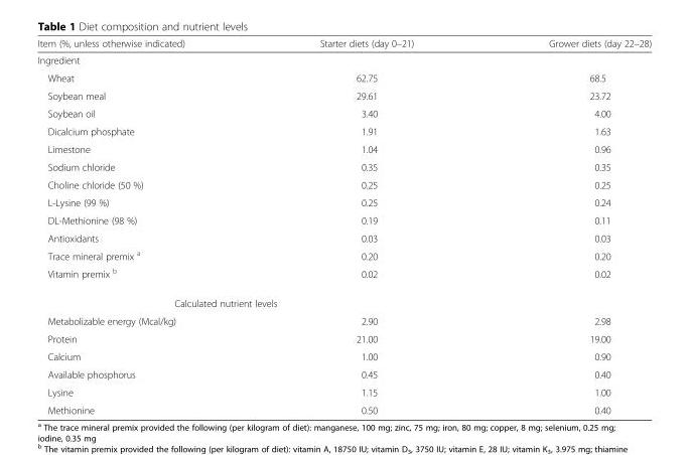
<table><thead><tr><td>Item (%, unless otherwise indicated)</td><td>Starter diets (day 0–21)</td><td>Grower diets (day 22–28)</td></tr></thead><tbody><tr><td colspan="3">Ingredient</td></tr><tr><td>Wheat</td><td>62.75</td><td>68.5</td></tr><tr><td>Soybean meal</td><td>29.61</td><td>23.72</td></tr><tr><td>Soybean oil</td><td>3.40</td><td>4.00</td></tr><tr><td>Dicalcium phosphate</td><td>1.91</td><td>1.63</td></tr><tr><td>Limestone</td><td>1.04</td><td>0.96</td></tr><tr><td>Sodium chloride</td><td>0.35</td><td>0.35</td></tr><tr><td>Choline chloride (50 %)</td><td>0.25</td><td>0.25</td></tr><tr><td>L-Lysine (99 %)</td><td>0.25</td><td>0.24</td></tr><tr><td>DL-Methionine (98 %)</td><td>0.19</td><td>0.11</td></tr><tr><td>Antioxidants</td><td>0.03</td><td>0.03</td></tr><tr><td>Trace mineral premix <sup>a</sup></td><td>0.20</td><td>0.20</td></tr><tr><td>Vitamin premix <sup>b</sup></td><td>0.02</td><td>0.02</td></tr><tr><td colspan="3">Calculated nutrient levels</td></tr><tr><td>Metabolizable energy (Mcal/kg)</td><td>2.90</td><td>2.98</td></tr><tr><td>Protein</td><td>21.00</td><td>19.00</td></tr><tr><td>Calcium</td><td>1.00</td><td>0.90</td></tr><tr><td>Available phosphorus</td><td>0.45</td><td>0.40</td></tr><tr><td>Lysine</td><td>1.15</td><td>1.00</td></tr><tr><td>Methionine</td><td>0.50</td><td>0.40</td></tr></tbody></table>